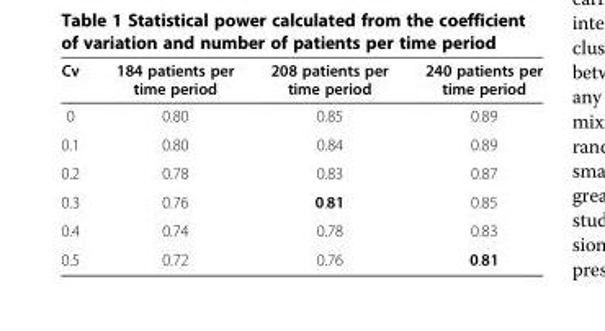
<table><thead><tr><td>Cv</td><td>184 patients per time period</td><td>208 patients per time period</td><td>240 patients per time period</td></tr></thead><tbody><tr><td>0</td><td>0.80</td><td>0.85</td><td>0.89</td></tr><tr><td>0.1</td><td>0.80</td><td>0.84</td><td>0.89</td></tr><tr><td>0.2</td><td>0.78</td><td>0.83</td><td>0.87</td></tr><tr><td>0.3</td><td>0.76</td><td>0.81</td><td>0.85</td></tr><tr><td>0.4</td><td>0.74</td><td>0.78</td><td>0.83</td></tr><tr><td>0.5</td><td>0.72</td><td>0.76</td><td>0.81</td></tr></tbody></table>